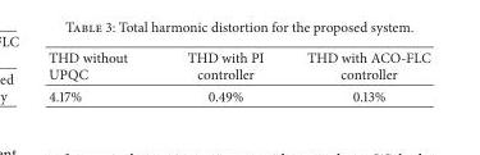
<table><thead><tr><td>THD without UPQC</td><td>THD with PI controller</td><td>THD with ACO-FLC controller</td></tr></thead><tbody><tr><td>4.17%</td><td>0.49%</td><td>0.13%</td></tr></tbody></table>